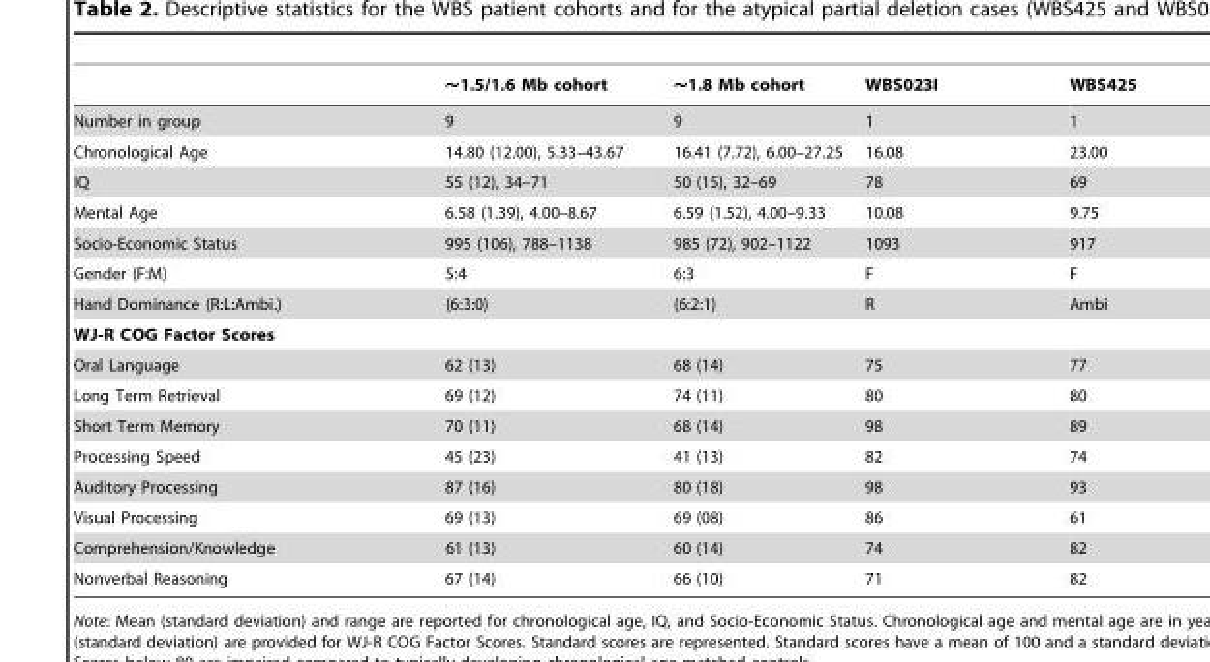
<table><thead><tr><td></td><td>∼1.5/1.6 Mb cohort</td><td>∼1.8 Mb cohort</td><td>WBS023I</td><td>WBS425</td></tr></thead><tbody><tr><td>Number in group</td><td>9</td><td>9</td><td>1</td><td>1</td></tr><tr><td>Chronological Age</td><td>14.80 (12.00), 5.33–43.67</td><td>16.41 (7.72), 6.00–27.25</td><td>16.08</td><td>23.00</td></tr><tr><td>IQ</td><td>55 (12), 34–71</td><td>50 (15), 32–69</td><td>78</td><td>69</td></tr><tr><td>Mental Age</td><td>6.58 (1.39), 4.00–8.67</td><td>6.59 (1.52), 4.00–9.33</td><td>10.08</td><td>9.75</td></tr><tr><td>Socio-Economic Status</td><td>995 (106), 788–1138</td><td>985 (72), 902–1122</td><td>1093</td><td>917</td></tr><tr><td>Gender (F:M)</td><td>5:4</td><td>6:3</td><td>F</td><td>F</td></tr><tr><td>Hand Dominance (R:L:Ambi.)</td><td>(6:3:0)</td><td>(6:2:1)</td><td>R</td><td>Ambi</td></tr><tr><td colspan="5">WJ-R COG Factor Scores</td></tr><tr><td>Oral Language</td><td>62 (13)</td><td>68 (14)</td><td>75</td><td>77</td></tr><tr><td>Long Term Retrieval</td><td>69 (12)</td><td>74 (11)</td><td>80</td><td>80</td></tr><tr><td>Short Term Memory</td><td>70 (11)</td><td>68 (14)</td><td>98</td><td>89</td></tr><tr><td>Processing Speed</td><td>45 (23)</td><td>41 (13)</td><td>82</td><td>74</td></tr><tr><td>Auditory Processing</td><td>87 (16)</td><td>80 (18)</td><td>98</td><td>93</td></tr><tr><td>Visual Processing</td><td>69 (13)</td><td>69 (08)</td><td>86</td><td>61</td></tr><tr><td>Comprehension/Knowledge</td><td>61 (13)</td><td>60 (14)</td><td>74</td><td>82</td></tr><tr><td>Nonverbal Reasoning</td><td>67 (14)</td><td>66 (10)</td><td>71</td><td>82</td></tr></tbody></table>